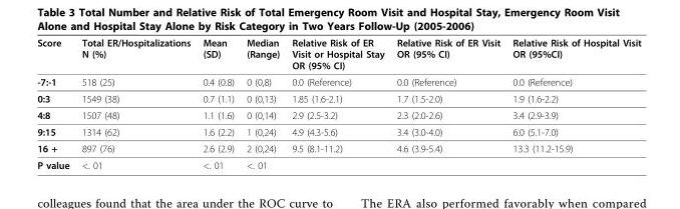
<table><thead><tr><td>Score</td><td>Total ER/Hospitalizations N (%)</td><td>Mean (SD)</td><td>Median (Range)</td><td>Relative Risk of ER Visit or Hospital Stay OR (95% CI)</td><td>Relative Risk of ER Visit OR (95% CI)</td><td>Relative Risk of Hospital Visit OR (95%CI)</td></tr></thead><tbody><tr><td>-7:-1</td><td>518 (25)</td><td>0.4 (0.8)</td><td>0 (0,8)</td><td>0.0 (Reference)</td><td>0.0 (Reference)</td><td>0.0 (Reference)</td></tr><tr><td>0:3</td><td>1549 (38)</td><td>0.7 (1.1)</td><td>0 (0,13)</td><td>1.85 (1.6-2.1)</td><td>1.7 (1.5-2.0)</td><td>1.9 (1.6-2.2)</td></tr><tr><td>4:8</td><td>1507 (48)</td><td>1.1 (1.6)</td><td>0 (0,14)</td><td>2.9 (2.5-3.2)</td><td>2.3 (2.0-2.6)</td><td>3.4 (2.9-3.9)</td></tr><tr><td>9:15</td><td>1314 (62)</td><td>1.6 (2.2)</td><td>1 (0,24)</td><td>4.9 (4.3-5.6)</td><td>3.4 (3.0-4.0)</td><td>6.0 (5.1-7.0)</td></tr><tr><td>16 +</td><td>897 (76)</td><td>2.6 (2.9)</td><td>2 (0,24)</td><td>9.5 (8.1-11.2)</td><td>4.6 (3.9-5.4)</td><td>13.3 (11.2-15.9)</td></tr><tr><td>P value</td><td>&lt;. 01</td><td>&lt;. 01</td><td>&lt;. 01</td><td></td><td></td><td></td></tr></tbody></table>